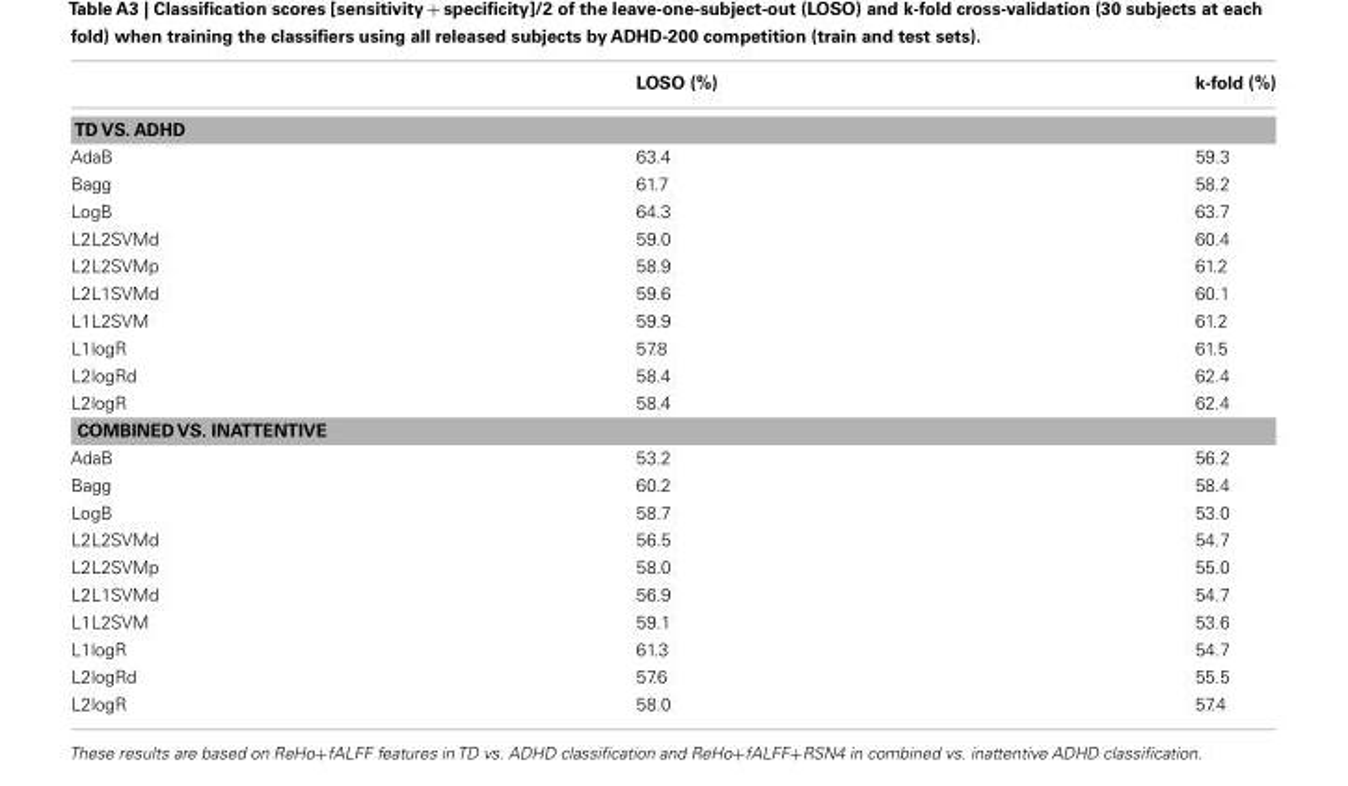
<table><thead><tr><td></td><td>LOSO (%)</td><td>k-fold (%)</td></tr></thead><tbody><tr><td colspan="3">TD VS. ADHD</td></tr><tr><td>AdaB</td><td>63.4</td><td>59.3</td></tr><tr><td>Bagg</td><td>61.7</td><td>58.2</td></tr><tr><td>LogB</td><td>64.3</td><td>63.7</td></tr><tr><td>L2L2SVMd</td><td>59.0</td><td>60.4</td></tr><tr><td>L2L2SVMp</td><td>58.9</td><td>61.2</td></tr><tr><td>L2L1SVMd</td><td>59.6</td><td>60.1</td></tr><tr><td>L1L2SVM</td><td>59.9</td><td>61.2</td></tr><tr><td>L1logR</td><td>57.8</td><td>61.5</td></tr><tr><td>L2logRd</td><td>58.4</td><td>62.4</td></tr><tr><td>L2logR</td><td>58.4</td><td>62.4</td></tr><tr><td colspan="3">COMBINED VS. INATTENTIVE</td></tr><tr><td>AdaB</td><td>53.2</td><td>56.2</td></tr><tr><td>Bagg</td><td>60.2</td><td>58.4</td></tr><tr><td>LogB</td><td>58.7</td><td>53.0</td></tr><tr><td>L2L2SVMd</td><td>56.5</td><td>54.7</td></tr><tr><td>L2L2SVMp</td><td>58.0</td><td>55.0</td></tr><tr><td>L2L1SVMd</td><td>56.9</td><td>54.7</td></tr><tr><td>L1L2SVM</td><td>59.1</td><td>53.6</td></tr><tr><td>L1logR</td><td>61.3</td><td>54.7</td></tr><tr><td>L2logRd</td><td>57.6</td><td>55.5</td></tr><tr><td>L2logR</td><td>58.0</td><td>57.4</td></tr></tbody></table>